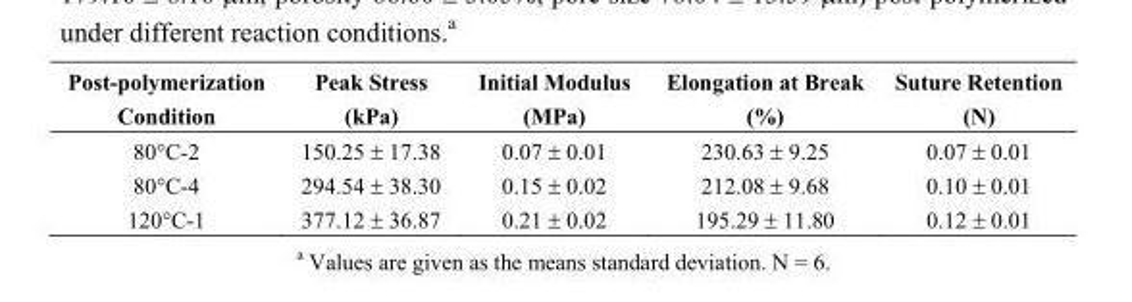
<table><thead><tr><td rowspan="2">Post-polymerization Condition</td><td rowspan="2">Peak Stress (kPa)</td><td rowspan="2">Initial Modulus (MPa)</td><td rowspan="2">Elongation at Break (%)</td><td rowspan="2">Suture Retention (N)</td></tr><tr></tr></thead><tbody><tr><td>80°C-2</td><td>150.25 ± 17.38</td><td>0.07 ± 0.01</td><td>230.63 ± 9.25</td><td>0.07 ± 0.01</td></tr><tr><td>80°C-4</td><td>294.54 ± 38.30</td><td>0.15 ± 0.02</td><td>212.08 ± 9.68</td><td>0.10 ± 0.01</td></tr><tr><td>120°C-1</td><td>377.12 ± 36.87</td><td>0.21 ± 0.02</td><td>195.29 ± 11.80</td><td>0.12 ± 0.01</td></tr></tbody></table>